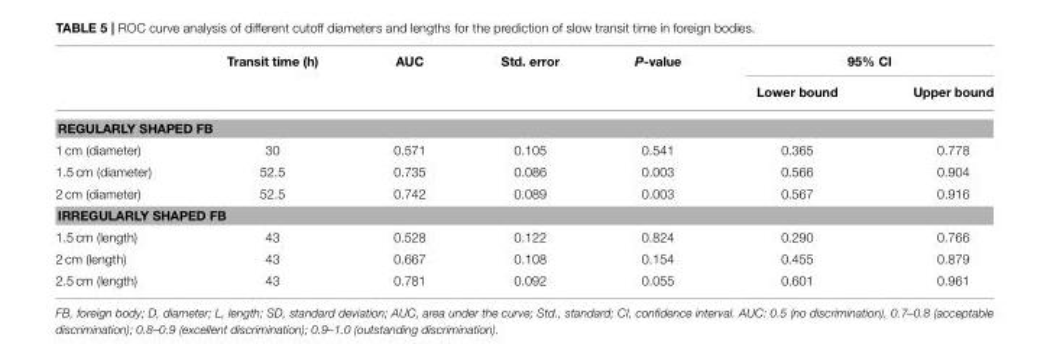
<table><thead><tr><td rowspan="2"></td><td rowspan="2">Transit time (h)</td><td rowspan="2">AUC</td><td rowspan="2">Std. error</td><td rowspan="2">P-value</td><td colspan="2">95% CI</td></tr><tr><td>Lower bound</td><td>Upper bound</td></tr></thead><tbody><tr><td colspan="7">REGULARLY SHAPED FB</td></tr><tr><td>1 cm (diameter)</td><td>30</td><td>0.571</td><td>0.105</td><td>0.541</td><td>0.365</td><td>0.778</td></tr><tr><td>1.5 cm (diameter)</td><td>52.5</td><td>0.735</td><td>0.086</td><td>0.003</td><td>0.566</td><td>0.904</td></tr><tr><td>2 cm (diameter)</td><td>52.5</td><td>0.742</td><td>0.089</td><td>0.003</td><td>0.567</td><td>0.916</td></tr><tr><td colspan="7">IRREGULARLY SHAPED FB</td></tr><tr><td>1.5 cm (length)</td><td>43</td><td>0.528</td><td>0.122</td><td>0.824</td><td>0.290</td><td>0.766</td></tr><tr><td>2 cm (length)</td><td>43</td><td>0.667</td><td>0.108</td><td>0.154</td><td>0.455</td><td>0.879</td></tr><tr><td>2.5 cm (length)</td><td>43</td><td>0.781</td><td>0.092</td><td>0.055</td><td>0.601</td><td>0.961</td></tr></tbody></table>